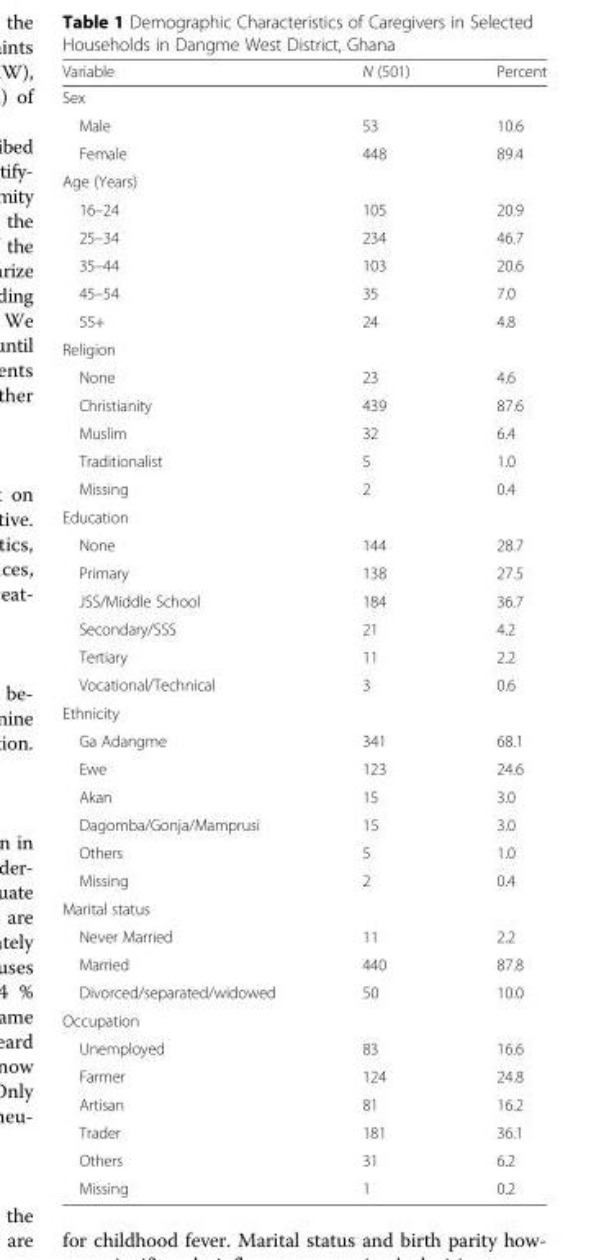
<table><thead><tr><td>Variable</td><td>N (501)</td><td>Percent</td></tr></thead><tbody><tr><td colspan="3">Sex</td></tr><tr><td>Male</td><td>53</td><td>10.6</td></tr><tr><td>Female</td><td>448</td><td>89.4</td></tr><tr><td colspan="3">Age (Years)</td></tr><tr><td>16–24</td><td>105</td><td>20.9</td></tr><tr><td>25–34</td><td>234</td><td>46.7</td></tr><tr><td>35–44</td><td>103</td><td>20.6</td></tr><tr><td>45–54</td><td>35</td><td>7.0</td></tr><tr><td>55+</td><td>24</td><td>4.8</td></tr><tr><td colspan="3">Religion</td></tr><tr><td>None</td><td>23</td><td>4.6</td></tr><tr><td>Christianity</td><td>439</td><td>87.6</td></tr><tr><td>Muslim</td><td>32</td><td>6.4</td></tr><tr><td>Traditionalist</td><td>5</td><td>1.0</td></tr><tr><td>Missing</td><td>2</td><td>0.4</td></tr><tr><td colspan="3">Education</td></tr><tr><td>None</td><td>144</td><td>28.7</td></tr><tr><td>Primary</td><td>138</td><td>27.5</td></tr><tr><td>JSS/Middle School</td><td>184</td><td>36.7</td></tr><tr><td>Secondary/SSS</td><td>21</td><td>4.2</td></tr><tr><td>Tertiary</td><td>11</td><td>2.2</td></tr><tr><td>Vocational/Technical</td><td>3</td><td>0.6</td></tr><tr><td colspan="3">Ethnicity</td></tr><tr><td>Ga Adangme</td><td>341</td><td>68.1</td></tr><tr><td>Ewe</td><td>123</td><td>24.6</td></tr><tr><td>Akan</td><td>15</td><td>3.0</td></tr><tr><td>Dagomba/Gonja/Mamprusi</td><td>15</td><td>3.0</td></tr><tr><td>Others</td><td>5</td><td>1.0</td></tr><tr><td>Missing</td><td>2</td><td>0.4</td></tr><tr><td colspan="3">Marital status</td></tr><tr><td>Never Married</td><td>11</td><td>2.2</td></tr><tr><td>Married</td><td>440</td><td>87.8</td></tr><tr><td>Divorced/separated/widowed</td><td>50</td><td>10.0</td></tr><tr><td colspan="3">Occupation</td></tr><tr><td>Unemployed</td><td>83</td><td>16.6</td></tr><tr><td>Farmer</td><td>124</td><td>24.8</td></tr><tr><td>Artisan</td><td>81</td><td>16.2</td></tr><tr><td>Trader</td><td>181</td><td>36.1</td></tr><tr><td>Others</td><td>31</td><td>6.2</td></tr><tr><td>Missing</td><td>1</td><td>0.2</td></tr></tbody></table>